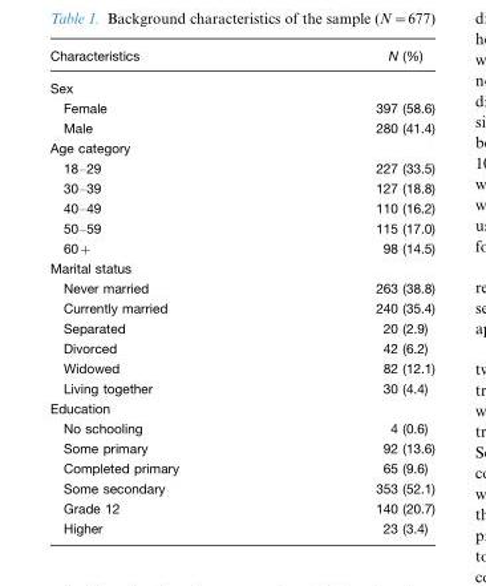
<table><thead><tr><td>Characteristics</td><td>N (%)</td></tr></thead><tbody><tr><td colspan="2">Sex</td></tr><tr><td>Female</td><td>397 (58.6)</td></tr><tr><td>Male</td><td>280 (41.4)</td></tr><tr><td colspan="2">Age category</td></tr><tr><td>18–29</td><td>227 (33.5)</td></tr><tr><td>30–39</td><td>127 (18.8)</td></tr><tr><td>40–49</td><td>110 (16.2)</td></tr><tr><td>50–59</td><td>115 (17.0)</td></tr><tr><td>60+</td><td>98 (14.5)</td></tr><tr><td colspan="2">Marital status</td></tr><tr><td>Never married</td><td>263 (38.8)</td></tr><tr><td>Currently married</td><td>240 (35.4)</td></tr><tr><td>Separated</td><td>20 (2.9)</td></tr><tr><td>Divorced</td><td>42 (6.2)</td></tr><tr><td>Widowed</td><td>82 (12.1)</td></tr><tr><td>Living together</td><td>30 (4.4)</td></tr><tr><td colspan="2">Education</td></tr><tr><td>No schooling</td><td>4 (0.6)</td></tr><tr><td>Some primary</td><td>92 (13.6)</td></tr><tr><td>Completed primary</td><td>65 (9.6)</td></tr><tr><td>Some secondary</td><td>353 (52.1)</td></tr><tr><td>Grade 12</td><td>140 (20.7)</td></tr><tr><td>Higher</td><td>23 (3.4)</td></tr></tbody></table>